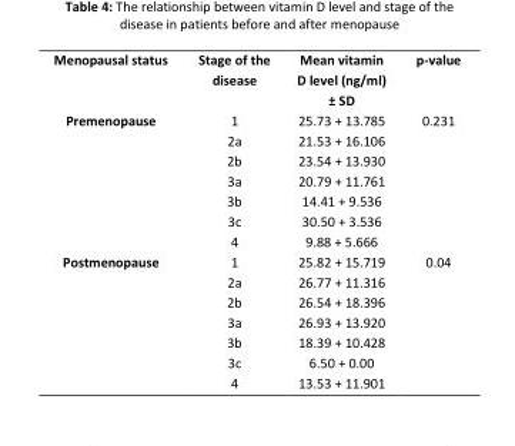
<table><tbody><tr><td>Menopausal status</td><td>Stage of the disease</td><td>Mean vitamin D level (ng/ml) ± SD</td><td>p-value</td></tr><tr><td rowspan="7">Premenopause</td><td>1</td><td>25.73 + 13.785</td><td rowspan="7">0.231</td></tr><tr><td>2a</td><td>21.53 + 16.106</td></tr><tr><td>2b</td><td>23.54 + 13.930</td></tr><tr><td>3a</td><td>20.79 + 11.761</td></tr><tr><td>3b</td><td>14.41 + 9.536</td></tr><tr><td>3c</td><td>30.50 + 3.536</td></tr><tr><td>4</td><td>9.88 + 5.666</td></tr><tr><td rowspan="7">Postmenopause</td><td>1</td><td>25.82 + 15.719</td><td rowspan="7">0.04</td></tr><tr><td>2a</td><td>26.77 + 11.316</td></tr><tr><td>2b</td><td>26.54 + 18.396</td></tr><tr><td>3a</td><td>26.93 + 13.920</td></tr><tr><td>3b</td><td>18.39 + 10.428</td></tr><tr><td>3c</td><td>6.50 + 0.00</td></tr><tr><td>4</td><td>13.53 + 11.901</td></tr></tbody></table>